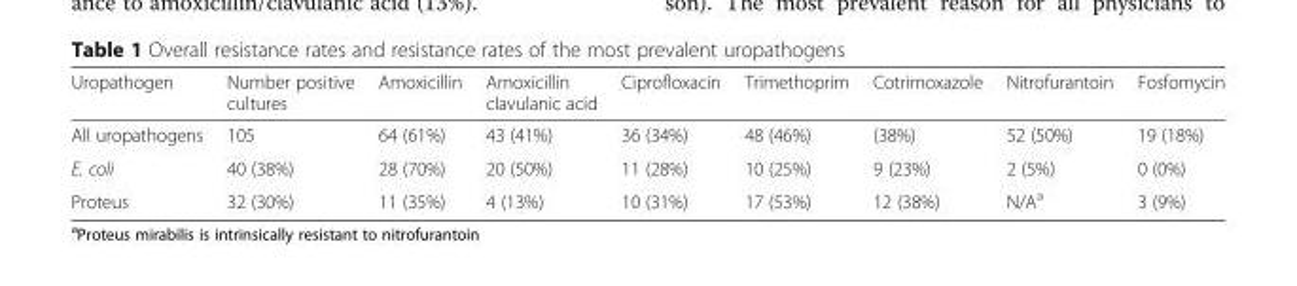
<table><thead><tr><td>Uropathogen</td><td>Number positive cultures</td><td>Amoxicillin</td><td>Amoxicillin clavulanic acid</td><td>Ciprofloxacin</td><td>Trimethoprim</td><td>Cotrimoxazole</td><td>Nitrofurantoin</td><td>Fosfomycin</td></tr></thead><tbody><tr><td>All uropathogens</td><td>105</td><td>64 (61%)</td><td>43 (41%)</td><td>36 (34%)</td><td>48 (46%)</td><td>(38%)</td><td>52 (50%)</td><td>19 (18%)</td></tr><tr><td>E. coli</td><td>40 (38%)</td><td>28 (70%)</td><td>20 (50%)</td><td>11 (28%)</td><td>10 (25%)</td><td>9 (23%)</td><td>2 (5%)</td><td>0 (0%)</td></tr><tr><td>Proteus</td><td>32 (30%)</td><td>11 (35%)</td><td>4 (13%)</td><td>10 (31%)</td><td>17 (53%)</td><td>12 (38%)</td><td>N/A<sup>a</sup></td><td>3 (9%)</td></tr></tbody></table>